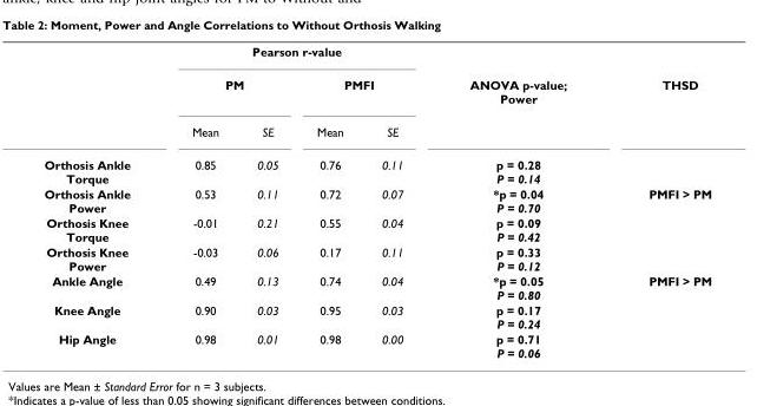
<table><thead><tr><td rowspan="3"></td><td colspan="4">Pearson r-value</td><td rowspan="3">ANOVA p-value; Power</td><td rowspan="3">THSD</td></tr><tr><td colspan="2">PM</td><td colspan="2">PMFI</td></tr><tr><td>Mean</td><td>SE</td><td>Mean</td><td>SE</td></tr></thead><tbody><tr><td>Orthosis Ankle Torque</td><td>0.85</td><td>0.05</td><td>0.76</td><td>0.11</td><td>p = 0.28 P = 0.14</td><td></td></tr><tr><td>Orthosis Ankle Power</td><td>0.53</td><td>0.11</td><td>0.72</td><td>0.07</td><td>*p = 0.04 P = 0.70</td><td>PMFI &gt; PM</td></tr><tr><td>Orthosis Knee Torque</td><td>-0.01</td><td>0.21</td><td>0.55</td><td>0.04</td><td>p = 0.09 P = 0.42</td><td></td></tr><tr><td>Orthosis Knee Power</td><td>-0.03</td><td>0.06</td><td>0.17</td><td>0.11</td><td>p = 0.33 P = 0.12</td><td></td></tr><tr><td>Ankle Angle</td><td>0.49</td><td>0.13</td><td>0.74</td><td>0.04</td><td>*p = 0.05 P = 0.80</td><td>PMFI &gt; PM</td></tr><tr><td>Knee Angle</td><td>0.90</td><td>0.03</td><td>0.95</td><td>0.03</td><td>p = 0.17 P = 0.24</td><td></td></tr><tr><td>Hip Angle</td><td>0.98</td><td>0.01</td><td>0.98</td><td>0.00</td><td>p = 0.71 P = 0.06</td><td></td></tr></tbody></table>